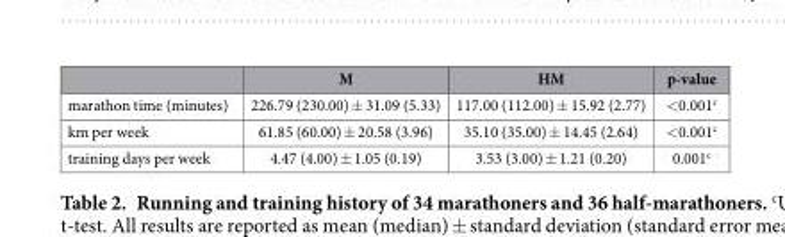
<table><thead><tr><td></td><td>M</td><td>HM</td><td>p-value</td></tr></thead><tbody><tr><td>marathon time (minutes)</td><td>226.79 (230.00) ± 31.09 (5.33)</td><td>117.00 (112.00) ± 15.92 (2.77)</td><td>&lt; 0.001<sup>c</sup></td></tr><tr><td>km per week</td><td>61.85 (60.00) ± 20.58 (3.96)</td><td>35.10 (35.00) ± 14.45 (2.64)</td><td>&lt; 0.001<sup>c</sup></td></tr><tr><td>training days per week</td><td>4.47 (4.00) ± 1.05 (0.19)</td><td>3.53 (3.00) ± 1.21 (0.20)</td><td>0.001<sup>c</sup></td></tr></tbody></table>